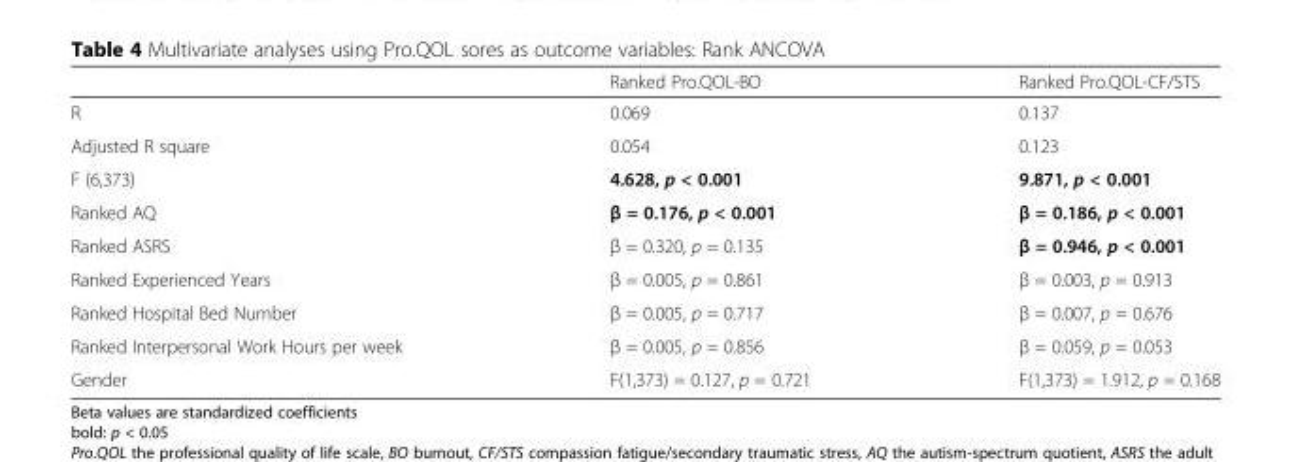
<table><thead><tr><td></td><td>Ranked Pro.QOL-BO</td><td>Ranked Pro.QOL-CF/STS</td></tr></thead><tbody><tr><td>R</td><td>0.069</td><td>0.137</td></tr><tr><td>Adjusted R square</td><td>0.054</td><td>0.123</td></tr><tr><td>F (6,373)</td><td>4.628, p &lt; 0.001</td><td>9.871, p &lt; 0.001</td></tr><tr><td>Ranked AQ</td><td>β = 0.176, p &lt; 0.001</td><td>β = 0.186, p &lt; 0.001</td></tr><tr><td>Ranked ASRS</td><td>β = 0.320, p = 0.135</td><td>β = 0.946, p &lt; 0.001</td></tr><tr><td>Ranked Experienced Years</td><td>β = 0.005, p = 0.861</td><td>β = 0.003, p = 0.913</td></tr><tr><td>Ranked Hospital Bed Number</td><td>β = 0.005, p = 0.717</td><td>β = 0.007, p = 0.676</td></tr><tr><td>Ranked Interpersonal Work Hours per week</td><td>β = 0.005, p = 0.856</td><td>β = 0.059, p = 0.053</td></tr><tr><td>Gender</td><td>F(1,373) = 0.127, p = 0.721</td><td>F(1,373) = 1.912, p = 0.168</td></tr></tbody></table>